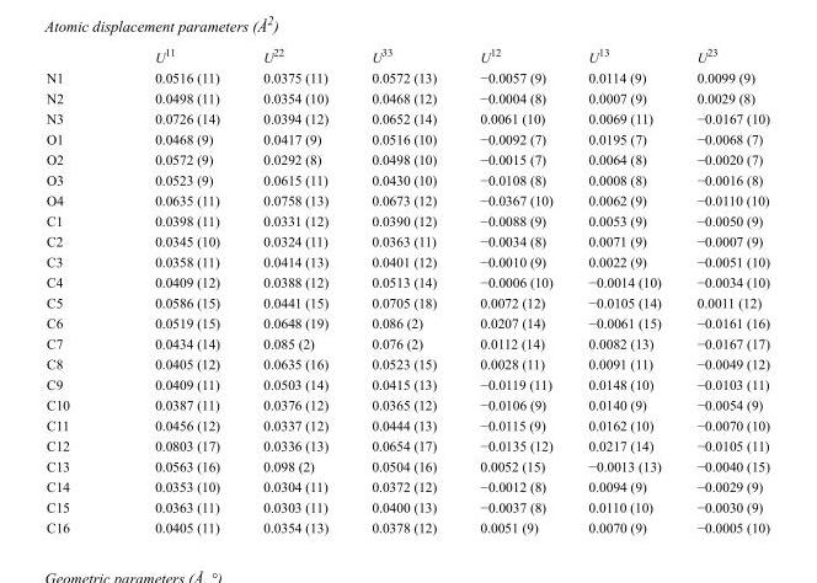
<table><thead><tr><td></td><td>U<sup>11</sup></td><td>U<sup>22</sup></td><td>U<sup>33</sup></td><td>U<sup>12</sup></td><td>U<sup>13</sup></td><td>U<sup>23</sup></td></tr></thead><tbody><tr><td>N1</td><td>0.0516 (11)</td><td>0.0375 (11)</td><td>0.0572 (13)</td><td>−0.0057 (9)</td><td>0.0114 (9)</td><td>0.0099 (9)</td></tr><tr><td>N2</td><td>0.0498 (11)</td><td>0.0354 (10)</td><td>0.0468 (12)</td><td>−0.0004 (8)</td><td>0.0007 (9)</td><td>0.0029 (8)</td></tr><tr><td>N3</td><td>0.0726 (14)</td><td>0.0394 (12)</td><td>0.0652 (14)</td><td>0.0061 (10)</td><td>0.0069 (11)</td><td>−0.0167 (10)</td></tr><tr><td>O1</td><td>0.0468 (9)</td><td>0.0417 (9)</td><td>0.0516 (10)</td><td>−0.0092 (7)</td><td>0.0195 (7)</td><td>−0.0068 (7)</td></tr><tr><td>O2</td><td>0.0572 (9)</td><td>0.0292 (8)</td><td>0.0498 (10)</td><td>−0.0015 (7)</td><td>0.0064 (8)</td><td>−0.0020 (7)</td></tr><tr><td>O3</td><td>0.0523 (9)</td><td>0.0615 (11)</td><td>0.0430 (10)</td><td>−0.0108 (8)</td><td>0.0008 (8)</td><td>−0.0016 (8)</td></tr><tr><td>O4</td><td>0.0635 (11)</td><td>0.0758 (13)</td><td>0.0673 (12)</td><td>−0.0367 (10)</td><td>0.0062 (9)</td><td>−0.0110 (10)</td></tr><tr><td>C1</td><td>0.0398 (11)</td><td>0.0331 (12)</td><td>0.0390 (12)</td><td>−0.0088 (9)</td><td>0.0053 (9)</td><td>−0.0050 (9)</td></tr><tr><td>C2</td><td>0.0345 (10)</td><td>0.0324 (11)</td><td>0.0363 (11)</td><td>−0.0034 (8)</td><td>0.0071 (9)</td><td>−0.0007 (9)</td></tr><tr><td>C3</td><td>0.0358 (11)</td><td>0.0414 (13)</td><td>0.0401 (12)</td><td>−0.0010 (9)</td><td>0.0022 (9)</td><td>−0.0051 (10)</td></tr><tr><td>C4</td><td>0.0409 (12)</td><td>0.0388 (12)</td><td>0.0513 (14)</td><td>−0.0006 (10)</td><td>−0.0014 (10)</td><td>−0.0034 (10)</td></tr><tr><td>C5</td><td>0.0586 (15)</td><td>0.0441 (15)</td><td>0.0705 (18)</td><td>0.0072 (12)</td><td>−0.0105 (14)</td><td>0.0011 (12)</td></tr><tr><td>C6</td><td>0.0519 (15)</td><td>0.0648 (19)</td><td>0.086 (2)</td><td>0.0207 (14)</td><td>−0.0061 (15)</td><td>−0.0161 (16)</td></tr><tr><td>C7</td><td>0.0434 (14)</td><td>0.085 (2)</td><td>0.076 (2)</td><td>0.0112 (14)</td><td>0.0082 (13)</td><td>−0.0167 (17)</td></tr><tr><td>C8</td><td>0.0405 (12)</td><td>0.0635 (16)</td><td>0.0523 (15)</td><td>0.0028 (11)</td><td>0.0091 (11)</td><td>−0.0049 (12)</td></tr><tr><td>C9</td><td>0.0409 (11)</td><td>0.0503 (14)</td><td>0.0415 (13)</td><td>−0.0119 (11)</td><td>0.0148 (10)</td><td>−0.0103 (11)</td></tr><tr><td>C10</td><td>0.0387 (11)</td><td>0.0376 (12)</td><td>0.0365 (12)</td><td>−0.0106 (9)</td><td>0.0140 (9)</td><td>−0.0054 (9)</td></tr><tr><td>C11</td><td>0.0456 (12)</td><td>0.0337 (12)</td><td>0.0444 (13)</td><td>−0.0115 (9)</td><td>0.0162 (10)</td><td>−0.0070 (10)</td></tr><tr><td>C12</td><td>0.0803 (17)</td><td>0.0336 (13)</td><td>0.0654 (17)</td><td>−0.0135 (12)</td><td>0.0217 (14)</td><td>−0.0105 (11)</td></tr><tr><td>C13</td><td>0.0563 (16)</td><td>0.098 (2)</td><td>0.0504 (16)</td><td>0.0052 (15)</td><td>−0.0013 (13)</td><td>−0.0040 (15)</td></tr><tr><td>C14</td><td>0.0353 (10)</td><td>0.0304 (11)</td><td>0.0372 (12)</td><td>−0.0012 (8)</td><td>0.0094 (9)</td><td>−0.0029 (9)</td></tr><tr><td>C15</td><td>0.0363 (11)</td><td>0.0303 (11)</td><td>0.0400 (13)</td><td>−0.0037 (8)</td><td>0.0110 (10)</td><td>−0.0030 (9)</td></tr><tr><td>C16</td><td>0.0405 (11)</td><td>0.0354 (13)</td><td>0.0378 (12)</td><td>0.0051 (9)</td><td>0.0070 (9)</td><td>−0.0005 (10)</td></tr></tbody></table>